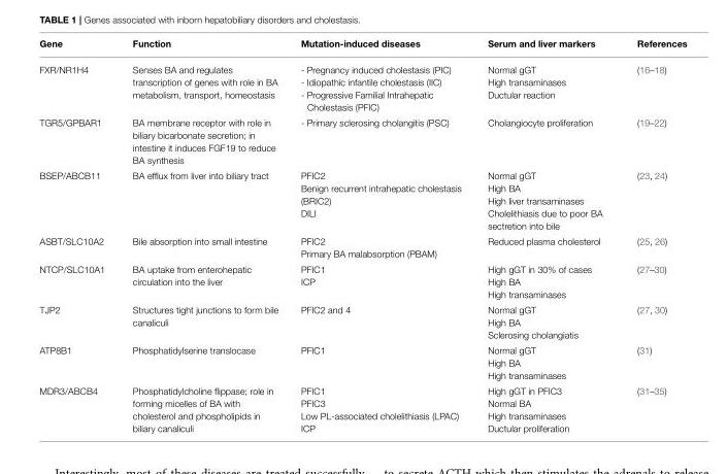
<table><thead><tr><td>Gene</td><td>Function</td><td>Mutation-induced diseases</td><td>Serum and liver markers</td><td>References</td></tr></thead><tbody><tr><td>FXR/NR1H4</td><td>Senses BA and regulates transcription of genes with role in BA metabolism, transport, homeostasis</td><td>- Pregnancy induced cholestasis (PIC) - Idiopathic infantile cholestasis (IIC) - Progressive Familial Intrahepatic Cholestasis (PFIC)</td><td>Normal gGT High transaminases Ductular reaction</td><td>(16–18)</td></tr><tr><td>TGR5/GPBAR1</td><td>BA membrane receptor with role in biliary bicarbonate secretion; in intestine it induces FGF19 to reduce BA synthesis</td><td>- Primary sclerosing cholangitis (PSC)</td><td>Cholangiocyte proliferation</td><td>(19–22)</td></tr><tr><td>BSEP/ABCB11</td><td>BA efflux from liver into biliary tract</td><td>PFIC2 Benign recurrent intrahepatic cholestasis (BRIC2) DILI</td><td>Normal gGT High BA High liver transaminases Cholelithiasis due to poor BA sectretion into bile</td><td>(23, 24)</td></tr><tr><td>ASBT/SLC10A2</td><td>Bile absorption into small intestine</td><td>PFIC2 Primary BA malabsorption (PBAM)</td><td>Reduced plasma cholesterol</td><td>(25, 26)</td></tr><tr><td>NTCP/SLC10A1</td><td>BA uptake from enterohepatic circulation into the liver</td><td>PFIC1 ICP</td><td>High gGT in 30% of cases High BA High transaminases</td><td>(27–30)</td></tr><tr><td>TJP2</td><td>Structures tight junctions to form bile canaliculi</td><td>PFIC2 and 4</td><td>Normal gGT High BA Sclerosing cholangiatis</td><td>(27, 30)</td></tr><tr><td>ATP8B1</td><td>Phosphatidylserine translocase</td><td>PFIC1</td><td>Normal gGT High BA High transaminases</td><td>(31)</td></tr><tr><td>MDR3/ABCB4</td><td>Phosphatidylcholine flippase; role in forming micelles of BA with cholesterol and phospholipids in biliary canaliculi</td><td>PFIC1 PFIC3 Low PL-associated cholelithiasis (LPAC) ICP</td><td>High gGT in PFIC3 Normal BA High transaminases Ductular proliferation</td><td>(31–35)</td></tr></tbody></table>